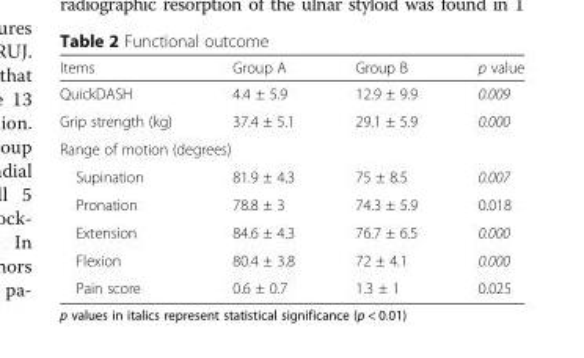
<table><thead><tr><td>Items</td><td>Group A</td><td>Group B</td><td>p value</td></tr></thead><tbody><tr><td>QuickDASH</td><td>4.4 ± 5.9</td><td>12.9 ± 9.9</td><td>0.009</td></tr><tr><td>Grip strength (kg)</td><td>37.4 ± 5.1</td><td>29.1 ± 5.9</td><td>0.000</td></tr><tr><td colspan="4">Range of motion (degrees)</td></tr><tr><td>Supination</td><td>81.9 ± 4.3</td><td>75 ± 8.5</td><td>0.007</td></tr><tr><td>Pronation</td><td>78.8 ± 3</td><td>74.3 ± 5.9</td><td>0.018</td></tr><tr><td>Extension</td><td>84.6 ± 4.3</td><td>76.7 ± 6.5</td><td>0.000</td></tr><tr><td>Flexion</td><td>80.4 ± 3.8</td><td>72 ± 4.1</td><td>0.000</td></tr><tr><td>Pain score</td><td>0.6 ± 0.7</td><td>1.3 ± 1</td><td>0.025</td></tr></tbody></table>